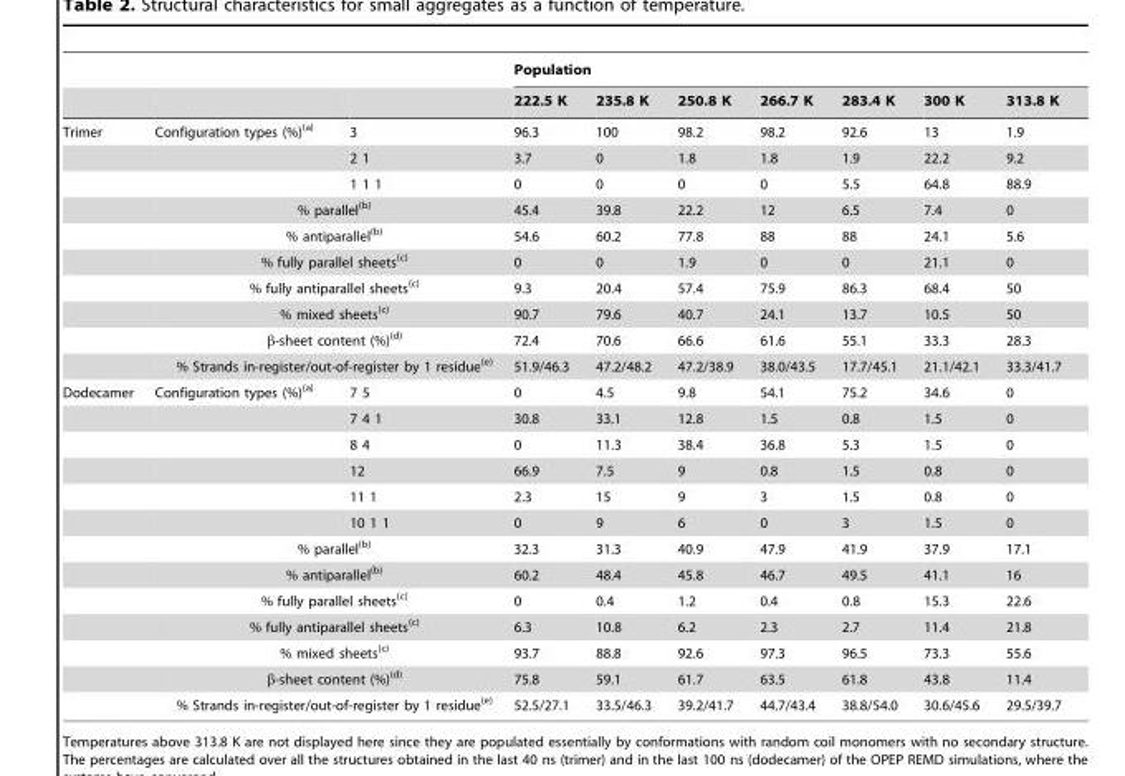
<table><thead><tr><td rowspan="2"></td><td rowspan="2"></td><td rowspan="2"></td><td colspan="7">Population</td></tr><tr><td>222.5 K</td><td>235.8 K</td><td>250.8 K</td><td>266.7 K</td><td>283.4 K</td><td>300 K</td><td>313.8 K</td></tr></thead><tbody><tr><td rowspan="10">Trimer</td><td>Configuration types (%)(a)</td><td>3</td><td>96.3</td><td>100</td><td>98.2</td><td>98.2</td><td>92.6</td><td>13</td><td>1.9</td></tr><tr><td></td><td>2 1</td><td>3.7</td><td>0</td><td>1.8</td><td>1.8</td><td>1.9</td><td>22.2</td><td>9.2</td></tr><tr><td></td><td>1 1 1</td><td>0</td><td>0</td><td>0</td><td>0</td><td>5.5</td><td>64.8</td><td>88.9</td></tr><tr><td colspan="2">% parallel(b)</td><td>45.4</td><td>39.8</td><td>22.2</td><td>12</td><td>6.5</td><td>7.4</td><td>0</td></tr><tr><td colspan="2">% antiparallel(b)</td><td>54.6</td><td>60.2</td><td>77.8</td><td>88</td><td>88</td><td>24.1</td><td>5.6</td></tr><tr><td colspan="2">% fully parallel sheets(c)</td><td>0</td><td>0</td><td>1.9</td><td>0</td><td>0</td><td>21.1</td><td>0</td></tr><tr><td colspan="2">% fully antiparallel sheets(c)</td><td>9.3</td><td>20.4</td><td>57.4</td><td>75.9</td><td>86.3</td><td>68.4</td><td>50</td></tr><tr><td colspan="2">% mixed sheets(c)</td><td>90.7</td><td>79.6</td><td>40.7</td><td>24.1</td><td>13.7</td><td>10.5</td><td>50</td></tr><tr><td colspan="2">β-sheet content (%)(d)</td><td>72.4</td><td>70.6</td><td>66.6</td><td>61.6</td><td>55.1</td><td>33.3</td><td>28.3</td></tr><tr><td colspan="2">% Strands in-register/out-of-register by 1 residue(e)</td><td>51.9/46.3</td><td>47.2/48.2</td><td>47.2/38.9</td><td>38.0/43.5</td><td>17.7/45.1</td><td>21.1/42.1</td><td>33.3/41.7</td></tr><tr><td rowspan="13">Dodecamer</td><td>Configuration types (%)(a)</td><td>7 5</td><td>0</td><td>4.5</td><td>9.8</td><td>54.1</td><td>75.2</td><td>34.6</td><td>0</td></tr><tr><td></td><td>7 4 1</td><td>30.8</td><td>33.1</td><td>12.8</td><td>1.5</td><td>0.8</td><td>1.5</td><td>0</td></tr><tr><td></td><td>8 4</td><td>0</td><td>11.3</td><td>38.4</td><td>36.8</td><td>5.3</td><td>1.5</td><td>0</td></tr><tr><td></td><td>12</td><td>66.9</td><td>7.5</td><td>9</td><td>0.8</td><td>1.5</td><td>0.8</td><td>0</td></tr><tr><td></td><td>11 1</td><td>2.3</td><td>15</td><td>9</td><td>3</td><td>1.5</td><td>0.8</td><td>0</td></tr><tr><td></td><td>10 1 1</td><td>0</td><td>9</td><td>6</td><td>0</td><td>3</td><td>1.5</td><td>0</td></tr><tr><td colspan="2">% parallel(b)</td><td>32.3</td><td>31.3</td><td>40.9</td><td>47.9</td><td>41.9</td><td>37.9</td><td>17.1</td></tr><tr><td colspan="2">% antiparallel(b)</td><td>60.2</td><td>48.4</td><td>45.8</td><td>46.7</td><td>49.5</td><td>41.1</td><td>16</td></tr><tr><td colspan="2">% fully parallel sheets(c)</td><td>0</td><td>0.4</td><td>1.2</td><td>0.4</td><td>0.8</td><td>15.3</td><td>22.6</td></tr><tr><td colspan="2">% fully antiparallel sheets(c)</td><td>6.3</td><td>10.8</td><td>6.2</td><td>2.3</td><td>2.7</td><td>11.4</td><td>21.8</td></tr><tr><td colspan="2">% mixed sheets(c)</td><td>93.7</td><td>88.8</td><td>92.6</td><td>97.3</td><td>96.5</td><td>73.3</td><td>55.6</td></tr><tr><td colspan="2">β-sheet content (%)(d)</td><td>75.8</td><td>59.1</td><td>61.7</td><td>63.5</td><td>61.8</td><td>43.8</td><td>11.4</td></tr><tr><td colspan="2">% Strands in-register/out-of-register by 1 residue(e)</td><td>52.5/27.1</td><td>33.5/46.3</td><td>39.2/41.7</td><td>44.7/43.4</td><td>38.8/54.0</td><td>30.6/45.6</td><td>29.5/39.7</td></tr></tbody></table>